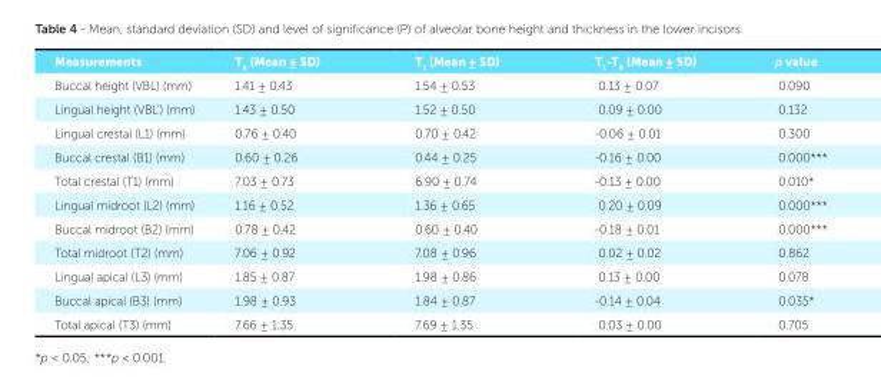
<table><tbody><tr><td>Measurements</td><td>T<sub>0</sub> (Mean ± SD)</td><td>T<sub>1</sub> (Mean ± SD)</td><td>T<sub>1</sub>-T<sub>0</sub> (Mean ± SD)</td><td>p value</td></tr><tr><td>Buccal height (VBL) (mm)</td><td>1.41 ± 0.43</td><td>1.54 ± 0.53</td><td>0.13 ± 0.07</td><td>0.090</td></tr><tr><td>Lingual height (VBL’) (mm)</td><td>1.43 ± 0.50</td><td>1.52 ± 0.50</td><td>0.09 ± 0.00</td><td>0.132</td></tr><tr><td>Lingual crestal (L1) (mm)</td><td>0.76 ± 0.40</td><td>0.70 ± 0.42</td><td>-0.06 ± 0.01</td><td>0.300</td></tr><tr><td>Buccal crestal (B1) (mm)</td><td>0.60 ± 0.26</td><td>0.44 ± 0.25</td><td>-0.16 ± 0.00</td><td>0.000***</td></tr><tr><td>Total crestal (T1) (mm)</td><td>7.03 ± 0.73</td><td>6.90 ± 0.74</td><td>-0.13 ± 0.00</td><td>0.010*</td></tr><tr><td>Lingual midroot (L2) (mm)</td><td>1.16 ± 0.52</td><td>1.36 ± 0.65</td><td>0.20 ± 0.09</td><td>0.000***</td></tr><tr><td>Buccal midroot (B2) (mm)</td><td>0.78 ± 0.42</td><td>0.60 ± 0.40</td><td>-0.18 ± 0.01</td><td>0.000***</td></tr><tr><td>Total midroot (T2) (mm)</td><td>7.06 ± 0.92</td><td>7.08 ± 0.96</td><td>0.02 ± 0.02</td><td>0.862</td></tr><tr><td>Lingual apical (L3) (mm)</td><td>1.85 ± 0.87</td><td>1.98 ± 0.86</td><td>0.13 ± 0.00</td><td>0.078</td></tr><tr><td>Buccal apical (B3) (mm)</td><td>1.98 ± 0.93</td><td>1.84 ± 0.87</td><td>-0.14 ± 0.04</td><td>0.035*</td></tr><tr><td>Total apical (T3) (mm)</td><td>7.66 ± 1.35</td><td>7.69 ± 1.35</td><td>0.03 ± 0.00</td><td>0.705</td></tr></tbody></table>